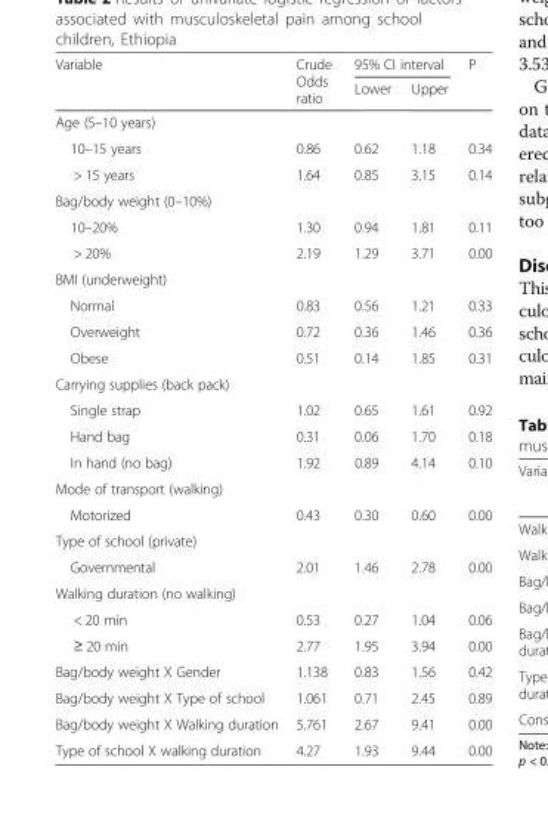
<table><thead><tr><td rowspan="2">Variable</td><td rowspan="2">Crude Odds ratio</td><td colspan="2">95% CI interval</td><td rowspan="2">P</td></tr><tr><td>Lower</td><td>Upper</td></tr></thead><tbody><tr><td colspan="5">Age (5–10 years)</td></tr><tr><td>10–15 years</td><td>0.86</td><td>0.62</td><td>1.18</td><td>0.34</td></tr><tr><td>&gt; 15 years</td><td>1.64</td><td>0.85</td><td>3.15</td><td>0.14</td></tr><tr><td colspan="5">Bag/body weight (0–10%)</td></tr><tr><td>10–20%</td><td>1.30</td><td>0.94</td><td>1.81</td><td>0.11</td></tr><tr><td>&gt; 20%</td><td>2.19</td><td>1.29</td><td>3.71</td><td>0.00</td></tr><tr><td colspan="5">BMI (underweight)</td></tr><tr><td>Normal</td><td>0.83</td><td>0.56</td><td>1.21</td><td>0.33</td></tr><tr><td>Overweight</td><td>0.72</td><td>0.36</td><td>1.46</td><td>0.36</td></tr><tr><td>Obese</td><td>0.51</td><td>0.14</td><td>1.85</td><td>0.31</td></tr><tr><td colspan="5">Carrying supplies (back pack)</td></tr><tr><td>Single strap</td><td>1.02</td><td>0.65</td><td>1.61</td><td>0.92</td></tr><tr><td>Hand bag</td><td>0.31</td><td>0.06</td><td>1.70</td><td>0.18</td></tr><tr><td>In hand (no bag)</td><td>1.92</td><td>0.89</td><td>4.14</td><td>0.10</td></tr><tr><td colspan="5">Mode of transport (walking)</td></tr><tr><td>Motorized</td><td>0.43</td><td>0.30</td><td>0.60</td><td>0.00</td></tr><tr><td colspan="5">Type of school (private)</td></tr><tr><td>Governmental</td><td>2.01</td><td>1.46</td><td>2.78</td><td>0.00</td></tr><tr><td colspan="5">Walking duration (no walking)</td></tr><tr><td>&lt; 20 min</td><td>0.53</td><td>0.27</td><td>1.04</td><td>0.06</td></tr><tr><td>≥ 20 min</td><td>2.77</td><td>1.95</td><td>3.94</td><td>0.00</td></tr><tr><td>Bag/body weight X Gender</td><td>1.138</td><td>0.83</td><td>1.56</td><td>0.42</td></tr><tr><td>Bag/body weight X Type of school</td><td>1.061</td><td>0.71</td><td>2.45</td><td>0.89</td></tr><tr><td>Bag/body weight X Walking duration</td><td>5.761</td><td>2.67</td><td>9.41</td><td>0.00</td></tr><tr><td>Type of school X walking duration</td><td>4.27</td><td>1.93</td><td>9.44</td><td>0.00</td></tr></tbody></table>